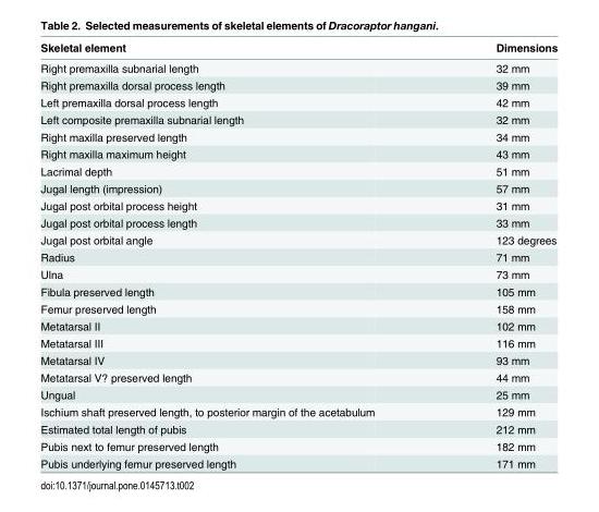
<table><thead><tr><td>Skeletal element</td><td>Dimensions</td></tr></thead><tbody><tr><td>Right premaxilla subnarial length</td><td>32 mm</td></tr><tr><td>Right premaxilla dorsal process length</td><td>39 mm</td></tr><tr><td>Left premaxilla dorsal process length</td><td>42 mm</td></tr><tr><td>Left composite premaxilla subnarial length</td><td>32 mm</td></tr><tr><td>Right maxilla preserved length</td><td>34 mm</td></tr><tr><td>Right maxilla maximum height</td><td>43 mm</td></tr><tr><td>Lacrimal depth</td><td>51 mm</td></tr><tr><td>Jugal length (impression)</td><td>57 mm</td></tr><tr><td>Jugal post orbital process height</td><td>31 mm</td></tr><tr><td>Jugal post orbital process length</td><td>33 mm</td></tr><tr><td>Jugal post orbital angle</td><td>123 degrees</td></tr><tr><td>Radius</td><td>71 mm</td></tr><tr><td>Ulna</td><td>73 mm</td></tr><tr><td>Fibula preserved length</td><td>105 mm</td></tr><tr><td>Femur preserved length</td><td>158 mm</td></tr><tr><td>Metatarsal II</td><td>102 mm</td></tr><tr><td>Metatarsal III</td><td>116 mm</td></tr><tr><td>Metatarsal IV</td><td>93 mm</td></tr><tr><td>Metatarsal V? preserved length</td><td>44 mm</td></tr><tr><td>Ungual</td><td>25 mm</td></tr><tr><td>Ischium shaft preserved length, to posterior margin of the acetabulum</td><td>129 mm</td></tr><tr><td>Estimated total length of pubis</td><td>212 mm</td></tr><tr><td>Pubis next to femur preserved length</td><td>182 mm</td></tr><tr><td>Pubis underlying femur preserved length</td><td>171 mm</td></tr></tbody></table>